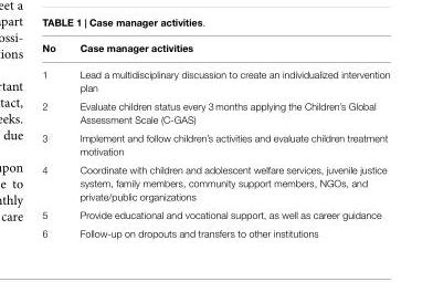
<table><thead><tr><td>No</td><td>Case manager activities</td></tr></thead><tbody><tr><td>1</td><td>Lead a multidisciplinary discussion to create an individualized intervention plan</td></tr><tr><td>2</td><td>Evaluate children status every 3 months applying the Children’s Global Assessment Scale (C-GAS)</td></tr><tr><td>3</td><td>Implement and follow children’s activities and evaluate children treatment motivation</td></tr><tr><td>4</td><td>Coordinate with children and adolescent welfare services, juvenile justice system, family members, community support members, NGOs, and private/public organizations</td></tr><tr><td>5</td><td>Provide educational and vocational support, as well as career guidance</td></tr><tr><td>6</td><td>Follow-up on dropouts and transfers to other institutions</td></tr></tbody></table>